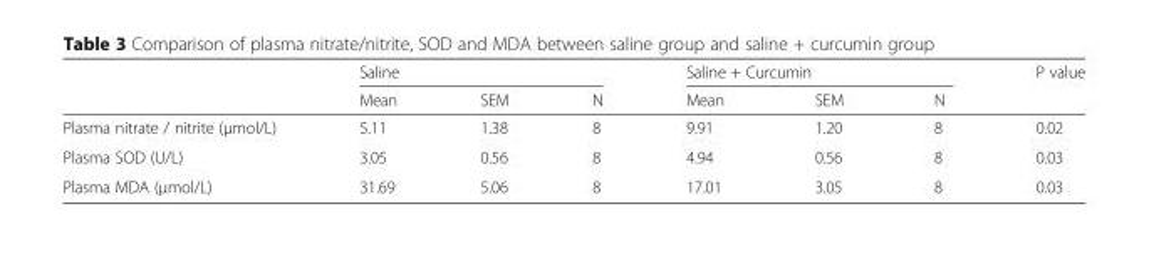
<table><thead><tr><td rowspan="2"></td><td colspan="3">Saline</td><td colspan="3">Saline + Curcumin</td><td rowspan="2">P value</td></tr><tr><td>Mean</td><td>SEM</td><td>N</td><td>Mean</td><td>SEM</td><td>N</td></tr></thead><tbody><tr><td>Plasma nitrate / nitrite (μmol/L)</td><td>5.11</td><td>1.38</td><td>8</td><td>9.91</td><td>1.20</td><td>8</td><td>0.02</td></tr><tr><td>Plasma SOD (U/L)</td><td>3.05</td><td>0.56</td><td>8</td><td>4.94</td><td>0.56</td><td>8</td><td>0.03</td></tr><tr><td>Plasma MDA (μmol/L)</td><td>31.69</td><td>5.06</td><td>8</td><td>17.01</td><td>3.05</td><td>8</td><td>0.03</td></tr></tbody></table>